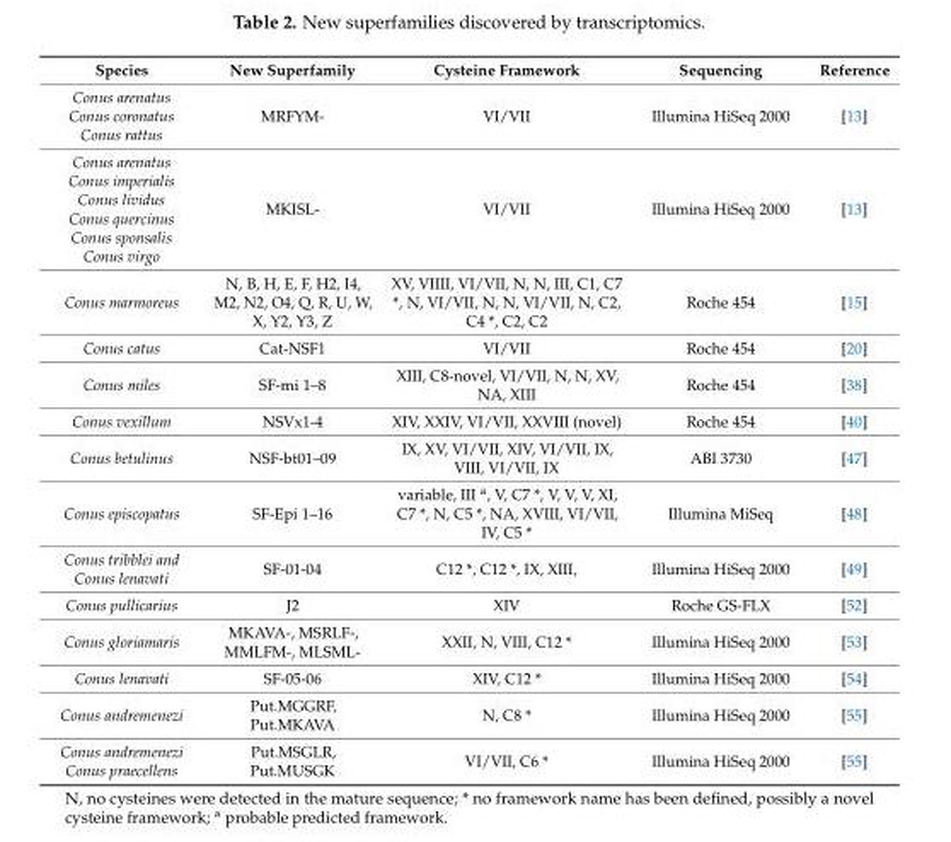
<table><thead><tr><td>Species</td><td>New Superfamily</td><td>Cysteine Framework</td><td>Sequencing</td><td>Reference</td></tr></thead><tbody><tr><td>Conus arenatus Conus coronatus Conus rattus</td><td>MRFYM-</td><td>VI/VII</td><td>Illumina HiSeq 2000</td><td>[13]</td></tr><tr><td>Conus arenatus Conus imperialis Conus lividus Conus quercinus Conus sponsalis Conus virgo</td><td>MKISL-</td><td>VI/VII</td><td>Illumina HiSeq 2000</td><td>[13]</td></tr><tr><td>Conus marmoreus</td><td>N, B, H, E, F, H2, I4, M2, N2, O4, Q, R, U, W, X, Y2, Y3, Z</td><td>XV, VIIII, VI/VII, N, N, III, C1, C7 *, N, VI/VII, N, N, VI/VII, N, C2, C4 *, C2, C2</td><td>Roche 454</td><td>[15]</td></tr><tr><td>Conus catus</td><td>Cat-NSF1</td><td>VI/VII</td><td>Roche 454</td><td>[20]</td></tr><tr><td>Conus miles</td><td>SF-mi 1–8</td><td>XIII, C8-novel, VI/VII, N, N, XV, NA, XIII</td><td>Roche 454</td><td>[38]</td></tr><tr><td>Conus vexillum</td><td>NSVx1-4</td><td>XIV, XXIV, VI/VII, XXVIII (novel)</td><td>Roche 454</td><td>[40]</td></tr><tr><td>Conus betulinus</td><td>NSF-bt01–09</td><td>IX, XV, VI/VII, XIV, VI/VII, IX, VIII, VI/VII, IX</td><td>ABI 3730</td><td>[47]</td></tr><tr><td>Conus episcopatus</td><td>SF-Epi 1–16</td><td>variable, III <sup>a</sup>, V, C7 *, V, V, V, XI, C7 *, N, C5 *, NA, XVIII, VI/VII, IV, C5 *</td><td>Illumina MiSeq</td><td>[48]</td></tr><tr><td>Conus tribblei and Conus lenavati</td><td>SF-01-04</td><td>C12 *, C12 *, IX, XIII,</td><td>Illumina HiSeq 2000</td><td>[49]</td></tr><tr><td>Conus pullicarius</td><td>J2</td><td>XIV</td><td>Roche GS-FLX</td><td>[52]</td></tr><tr><td>Conus gloriamaris</td><td>MKAVA-, MSRLF-, MMLFM-, MLSML-</td><td>XXII, N, VIII, C12 *</td><td>Illumina HiSeq 2000</td><td>[53]</td></tr><tr><td>Conus lenavati</td><td>SF-05-06</td><td>XIV, C12 *</td><td>Illumina HiSeq 2000</td><td>[54]</td></tr><tr><td>Conus andremenezi</td><td>Put.MGGRF, Put.MKAVA</td><td>N, C8 *</td><td>Illumina HiSeq 2000</td><td>[55]</td></tr><tr><td>Conus andremenezi Conus praecellens</td><td>Put.MSGLR, Put.MUSGK</td><td>VI/VII, C6 *</td><td>Illumina HiSeq 2000</td><td>[55]</td></tr></tbody></table>